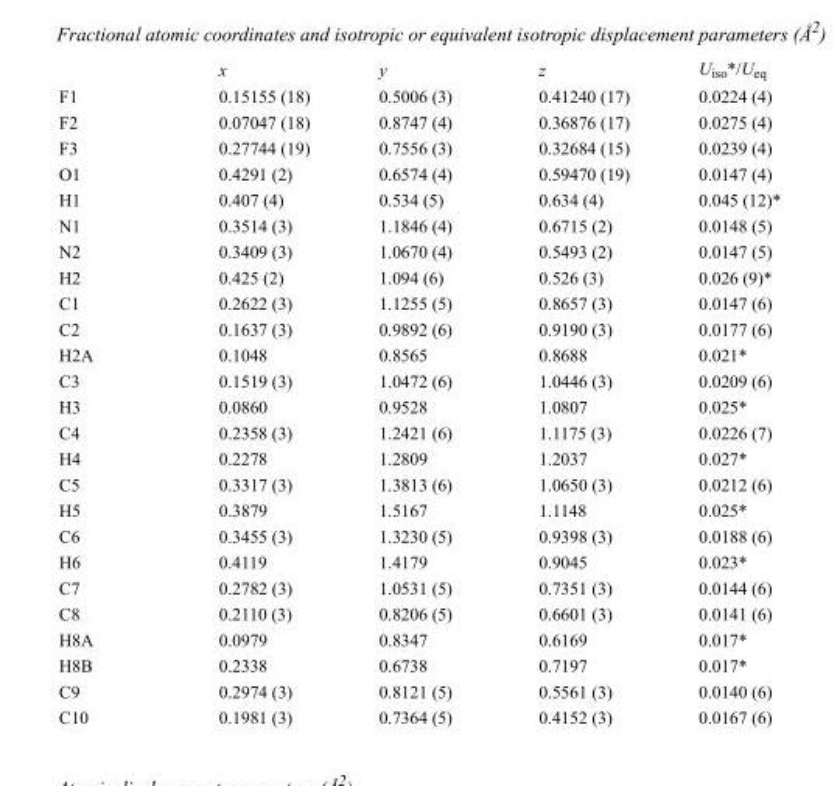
<table><thead><tr><td></td><td>x</td><td>y</td><td>z</td><td>U<sub>iso</sub>*/U<sub>eq</sub></td></tr></thead><tbody><tr><td>F1</td><td>0.15155 (18)</td><td>0.5006 (3)</td><td>0.41240 (17)</td><td>0.0224 (4)</td></tr><tr><td>F2</td><td>0.07047 (18)</td><td>0.8747 (4)</td><td>0.36876 (17)</td><td>0.0275 (4)</td></tr><tr><td>F3</td><td>0.27744 (19)</td><td>0.7556 (3)</td><td>0.32684 (15)</td><td>0.0239 (4)</td></tr><tr><td>O1</td><td>0.4291 (2)</td><td>0.6574 (4)</td><td>0.59470 (19)</td><td>0.0147 (4)</td></tr><tr><td>H1</td><td>0.407 (4)</td><td>0.534 (5)</td><td>0.634 (4)</td><td>0.045 (12)*</td></tr><tr><td>N1</td><td>0.3514 (3)</td><td>1.1846 (4)</td><td>0.6715 (2)</td><td>0.0148 (5)</td></tr><tr><td>N2</td><td>0.3409 (3)</td><td>1.0670 (4)</td><td>0.5493 (2)</td><td>0.0147 (5)</td></tr><tr><td>H2</td><td>0.425 (2)</td><td>1.094 (6)</td><td>0.526 (3)</td><td>0.026 (9)*</td></tr><tr><td>C1</td><td>0.2622 (3)</td><td>1.1255 (5)</td><td>0.8657 (3)</td><td>0.0147 (6)</td></tr><tr><td>C2</td><td>0.1637 (3)</td><td>0.9892 (6)</td><td>0.9190 (3)</td><td>0.0177 (6)</td></tr><tr><td>H2A</td><td>0.1048</td><td>0.8565</td><td>0.8688</td><td>0.021*</td></tr><tr><td>C3</td><td>0.1519 (3)</td><td>1.0472 (6)</td><td>1.0446 (3)</td><td>0.0209 (6)</td></tr><tr><td>H3</td><td>0.0860</td><td>0.9528</td><td>1.0807</td><td>0.025*</td></tr><tr><td>C4</td><td>0.2358 (3)</td><td>1.2421 (6)</td><td>1.1175 (3)</td><td>0.0226 (7)</td></tr><tr><td>H4</td><td>0.2278</td><td>1.2809</td><td>1.2037</td><td>0.027*</td></tr><tr><td>C5</td><td>0.3317 (3)</td><td>1.3813 (6)</td><td>1.0650 (3)</td><td>0.0212 (6)</td></tr><tr><td>H5</td><td>0.3879</td><td>1.5167</td><td>1.1148</td><td>0.025*</td></tr><tr><td>C6</td><td>0.3455 (3)</td><td>1.3230 (5)</td><td>0.9398 (3)</td><td>0.0188 (6)</td></tr><tr><td>H6</td><td>0.4119</td><td>1.4179</td><td>0.9045</td><td>0.023*</td></tr><tr><td>C7</td><td>0.2782 (3)</td><td>1.0531 (5)</td><td>0.7351 (3)</td><td>0.0144 (6)</td></tr><tr><td>C8</td><td>0.2110 (3)</td><td>0.8206 (5)</td><td>0.6601 (3)</td><td>0.0141 (6)</td></tr><tr><td>H8A</td><td>0.0979</td><td>0.8347</td><td>0.6169</td><td>0.017*</td></tr><tr><td>H8B</td><td>0.2338</td><td>0.6738</td><td>0.7197</td><td>0.017*</td></tr><tr><td>C9</td><td>0.2974 (3)</td><td>0.8121 (5)</td><td>0.5561 (3)</td><td>0.0140 (6)</td></tr><tr><td>C10</td><td>0.1981 (3)</td><td>0.7364 (5)</td><td>0.4152 (3)</td><td>0.0167 (6)</td></tr></tbody></table>